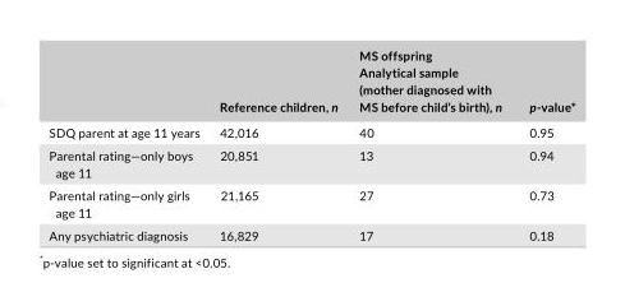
<table><thead><tr><td></td><td>Reference children, n</td><td>MS offspring Analytical sample (mother diagnosed with MS before child’s birth), n</td><td>p‐value*</td></tr></thead><tbody><tr><td>SDQ parent at age 11 years</td><td>42,016</td><td>40</td><td>0.95</td></tr><tr><td>Parental rating—only boys age 11</td><td>20,851</td><td>13</td><td>0.94</td></tr><tr><td>Parental rating—only girls age 11</td><td>21,165</td><td>27</td><td>0.73</td></tr><tr><td>Any psychiatric diagnosis</td><td>16,829</td><td>17</td><td>0.18</td></tr></tbody></table>